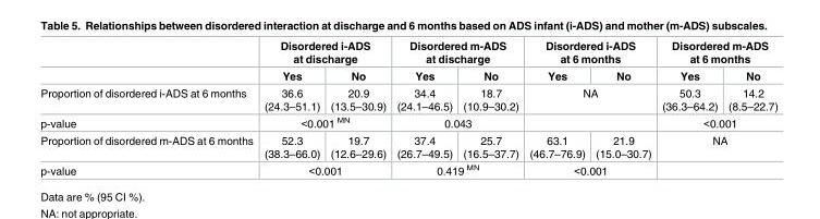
<table><thead><tr><td rowspan="2"></td><td colspan="2">Disordered i-ADS at discharge</td><td colspan="2">Disordered m-ADS at discharge</td><td colspan="2">Disordered i-ADS at 6 months</td><td colspan="2">Disordered m-ADS at 6 months</td></tr><tr><td>Yes</td><td>No</td><td>Yes</td><td>No</td><td>Yes</td><td>No</td><td>Yes</td><td>No</td></tr></thead><tbody><tr><td>Proportion of disordered i-ADS at 6 months</td><td>36.6 (24.3–51.1)</td><td>20.9 (13.5–30.9)</td><td>34.4 (24.1–46.5)</td><td>18.7 (10.9–30.2)</td><td colspan="2">NA</td><td>50.3 (36.3–64.2)</td><td>14.2 (8.5–22.7)</td></tr><tr><td>p-value</td><td colspan="2">&lt;0.001 <sup>MN</sup></td><td colspan="2">0.043</td><td colspan="2"></td><td colspan="2">&lt;0.001</td></tr><tr><td>Proportion of disordered m-ADS at 6 months</td><td>52.3 (38.3–66.0)</td><td>19.7 (12.6–29.6)</td><td>37.4 (26.7–49.5)</td><td>25.7 (16.5–37.7)</td><td>63.1 (46.7–76.9)</td><td>21.9 (15.0–30.7)</td><td colspan="2">NA</td></tr><tr><td>p-value</td><td colspan="2">&lt;0.001</td><td colspan="2">0.419 <sup>MN</sup></td><td colspan="2">&lt;0.001</td><td colspan="2"></td></tr></tbody></table>